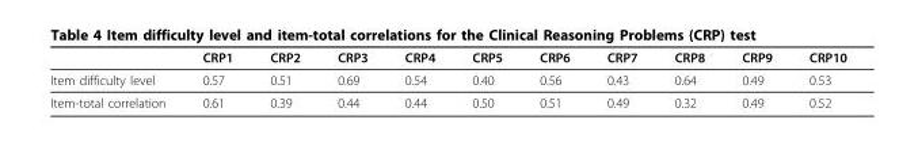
<table><thead><tr><td></td><td>CRP1</td><td>CRP2</td><td>CRP3</td><td>CRP4</td><td>CRP5</td><td>CRP6</td><td>CRP7</td><td>CRP8</td><td>CRP9</td><td>CRP10</td></tr></thead><tbody><tr><td>Item difficulty level</td><td>0.57</td><td>0.51</td><td>0.69</td><td>0.54</td><td>0.40</td><td>0.56</td><td>0.43</td><td>0.64</td><td>0.49</td><td>0.53</td></tr><tr><td>Item-total correlation</td><td>0.61</td><td>0.39</td><td>0.44</td><td>0.44</td><td>0.50</td><td>0.51</td><td>0.49</td><td>0.32</td><td>0.49</td><td>0.52</td></tr></tbody></table>